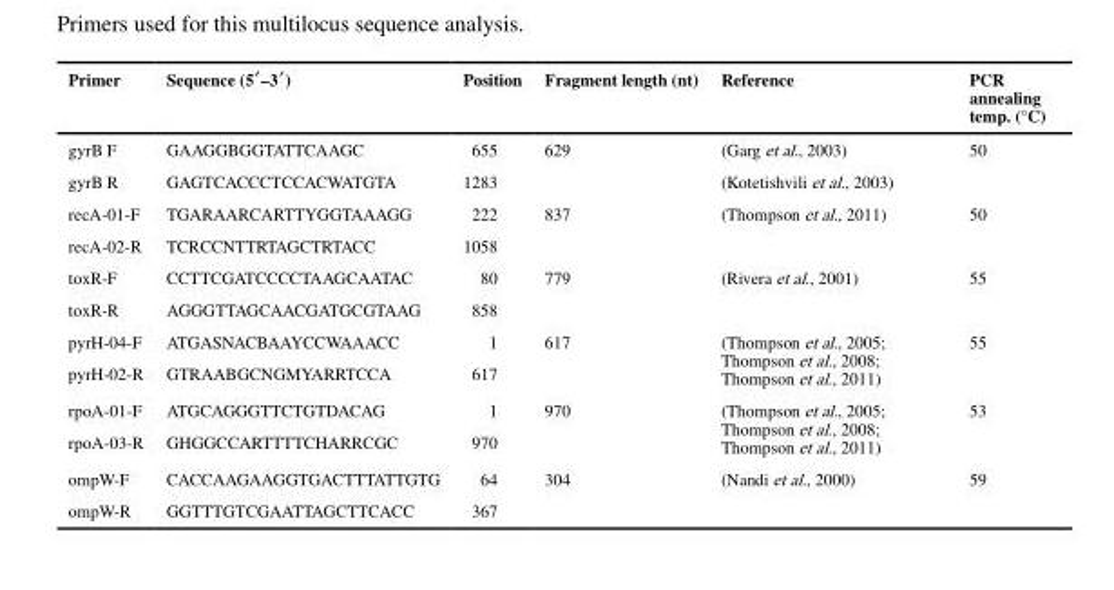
<table><thead><tr><td>Primer</td><td>Sequence (5′–3′)</td><td>Position</td><td>Fragment length (nt)</td><td>Reference</td><td>PCR annealing temp. (°C)</td></tr></thead><tbody><tr><td>gyrB F</td><td>GAAGGBGGTATTCAAGC</td><td>655</td><td>629</td><td>(Garg et al., 2003)</td><td>50</td></tr><tr><td>gyrB R</td><td>GAGTCACCCTCCACWATGTA</td><td>1283</td><td></td><td>(Kotetishvili et al., 2003)</td><td></td></tr><tr><td>recA-01-F</td><td>TGARAARCARTTYGGTAAAGG</td><td>222</td><td>837</td><td>(Thompson et al., 2011)</td><td>50</td></tr><tr><td>recA-02-R</td><td>TCRCCNTTRTAGCTRTACC</td><td>1058</td><td></td><td></td><td></td></tr><tr><td>toxR-F</td><td>CCTTCGATCCCCTAAGCAATAC</td><td>80</td><td>779</td><td>(Rivera et al., 2001)</td><td>55</td></tr><tr><td>toxR-R</td><td>AGGGTTAGCAACGATGCGTAAG</td><td>858</td><td></td><td></td><td></td></tr><tr><td>pyrH-04-F</td><td>ATGASNACBAAYCCWAAACC</td><td>1</td><td>617</td><td rowspan="2">(Thompson et al., 2005; Thompson et al., 2008; Thompson et al., 2011)</td><td>55</td></tr><tr><td>pyrH-02-R</td><td>GTRAABGCNGMYARRTCCA</td><td>617</td><td></td><td></td></tr><tr><td>rpoA-01-F</td><td>ATGCAGGGTTCTGTDACAG</td><td>1</td><td>970</td><td rowspan="2">(Thompson et al., 2005; Thompson et al., 2008; Thompson et al., 2011)</td><td>53</td></tr><tr><td>rpoA-03-R</td><td>GHGGCCARTTTTCHARRCGC</td><td>970</td><td></td><td></td></tr><tr><td>ompW-F</td><td>CACCAAGAAGGTGACTTTATTGTG</td><td>64</td><td>304</td><td>(Nandi et al., 2000)</td><td>59</td></tr><tr><td>ompW-R</td><td>GGTTTGTCGAATTAGCTTCACC</td><td>367</td><td></td><td></td><td></td></tr></tbody></table>